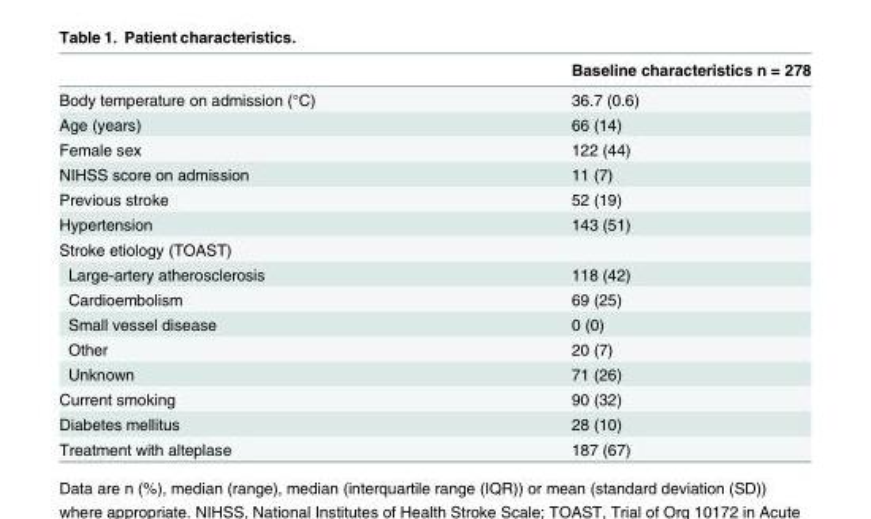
<table><thead><tr><td></td><td>Baseline characteristics n = 278</td></tr></thead><tbody><tr><td>Body temperature on admission (°C)</td><td>36.7 (0.6)</td></tr><tr><td>Age (years)</td><td>66 (14)</td></tr><tr><td>Female sex</td><td>122 (44)</td></tr><tr><td>NIHSS score on admission</td><td>11 (7)</td></tr><tr><td>Previous stroke</td><td>52 (19)</td></tr><tr><td>Hypertension</td><td>143 (51)</td></tr><tr><td colspan="2">Stroke etiology (TOAST)</td></tr><tr><td>Large-artery atherosclerosis</td><td>118 (42)</td></tr><tr><td>Cardioembolism</td><td>69 (25)</td></tr><tr><td>Small vessel disease</td><td>0 (0)</td></tr><tr><td>Other</td><td>20 (7)</td></tr><tr><td>Unknown</td><td>71 (26)</td></tr><tr><td>Current smoking</td><td>90 (32)</td></tr><tr><td>Diabetes mellitus</td><td>28 (10)</td></tr><tr><td>Treatment with alteplase</td><td>187 (67)</td></tr></tbody></table>